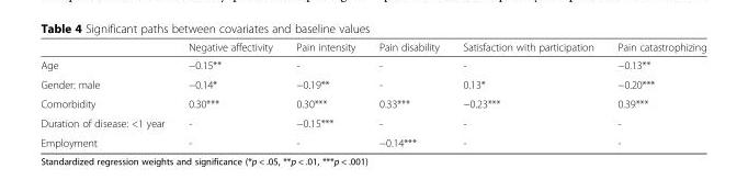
<table><thead><tr><td></td><td>Negative affectivity</td><td>Pain intensity</td><td>Pain disability</td><td>Satisfaction with participation</td><td>Pain catastrophizing</td></tr></thead><tbody><tr><td>Age</td><td>−0.15**</td><td>-</td><td>-</td><td>-</td><td>−0.13**</td></tr><tr><td>Gender: male</td><td>−0.14*</td><td>−0.19**</td><td>-</td><td>0.13*</td><td>−0.20***</td></tr><tr><td>Comorbidity</td><td>0.30***</td><td>0.30***</td><td>0.33***</td><td>−0.23***</td><td>0.39***</td></tr><tr><td>Duration of disease: &lt;1 year</td><td>-</td><td>−0.15***</td><td>-</td><td>-</td><td>-</td></tr><tr><td>Employment</td><td>-</td><td>-</td><td>−0.14***</td><td>-</td><td>-</td></tr></tbody></table>